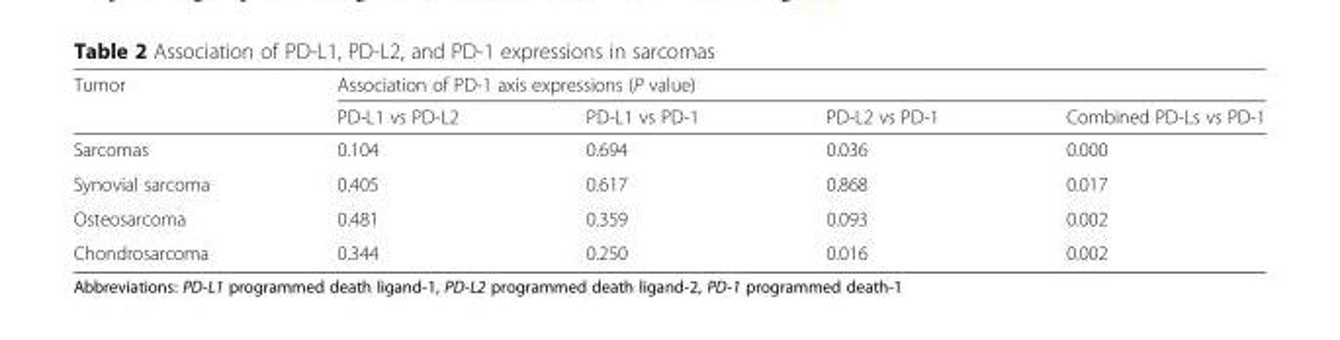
<table><thead><tr><td rowspan="2">Tumor</td><td colspan="4">Association of PD-1 axis expressions (P value)</td></tr><tr><td>PD-L1 vs PD-L2</td><td>PD-L1 vs PD-1</td><td>PD-L2 vs PD-1</td><td>Combined PD-Ls vs PD-1</td></tr></thead><tbody><tr><td>Sarcomas</td><td>0.104</td><td>0.694</td><td>0.036</td><td>0.000</td></tr><tr><td>Synovial sarcoma</td><td>0.405</td><td>0.617</td><td>0.868</td><td>0.017</td></tr><tr><td>Osteosarcoma</td><td>0.481</td><td>0.359</td><td>0.093</td><td>0.002</td></tr><tr><td>Chondrosarcoma</td><td>0.344</td><td>0.250</td><td>0.016</td><td>0.002</td></tr></tbody></table>